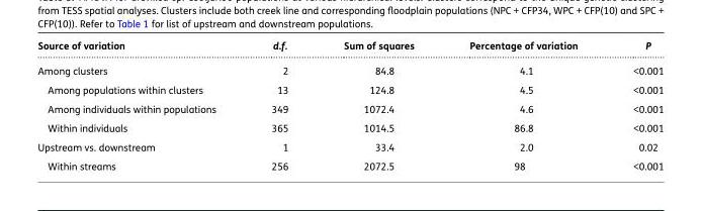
<table><thead><tr><td>Source of variation</td><td>d.f.</td><td>Sum of squares</td><td>Percentage of variation</td><td>P</td></tr></thead><tbody><tr><td>Among clusters</td><td>2</td><td>84.8</td><td>4.1</td><td>&lt;0.001</td></tr><tr><td>Among populations within clusters</td><td>13</td><td>124.8</td><td>4.5</td><td>&lt;0.001</td></tr><tr><td>Among individuals within populations</td><td>349</td><td>1072.4</td><td>4.6</td><td>&lt;0.001</td></tr><tr><td>Within individuals</td><td>365</td><td>1014.5</td><td>86.8</td><td>&lt;0.001</td></tr><tr><td>Upstream vs. downstream</td><td>1</td><td>33.4</td><td>2.0</td><td>0.02</td></tr><tr><td>Within streams</td><td>256</td><td>2072.5</td><td>98</td><td>&lt;0.001</td></tr></tbody></table>